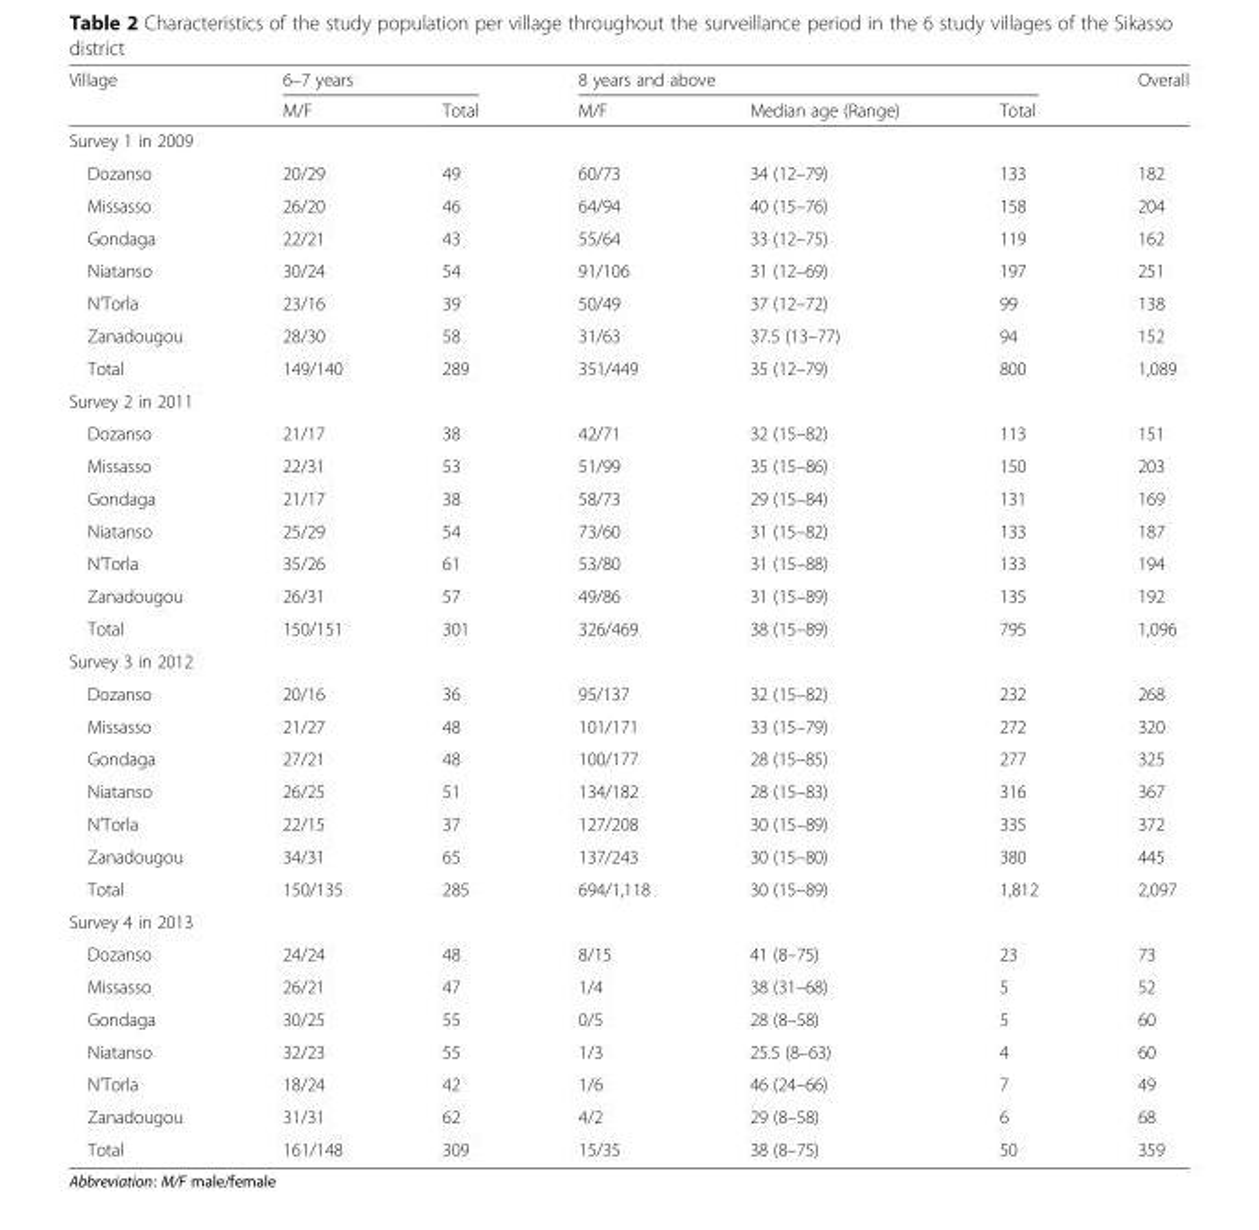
<table><thead><tr><td rowspan="2">Village</td><td colspan="2">6–7 years</td><td colspan="3">8 years and above</td><td rowspan="2">Overall</td></tr><tr><td>M/F</td><td>Total</td><td>M/F</td><td>Median age (Range)</td><td>Total</td></tr></thead><tbody><tr><td colspan="7">Survey 1 in 2009</td></tr><tr><td>Dozanso</td><td>20/29</td><td>49</td><td>60/73</td><td>34 (12–79)</td><td>133</td><td>182</td></tr><tr><td>Missasso</td><td>26/20</td><td>46</td><td>64/94</td><td>40 (15–76)</td><td>158</td><td>204</td></tr><tr><td>Gondaga</td><td>22/21</td><td>43</td><td>55/64</td><td>33 (12–75)</td><td>119</td><td>162</td></tr><tr><td>Niatanso</td><td>30/24</td><td>54</td><td>91/106</td><td>31 (12–69)</td><td>197</td><td>251</td></tr><tr><td>N’Torla</td><td>23/16</td><td>39</td><td>50/49</td><td>37 (12–72)</td><td>99</td><td>138</td></tr><tr><td>Zanadougou</td><td>28/30</td><td>58</td><td>31/63</td><td>37.5 (13–77)</td><td>94</td><td>152</td></tr><tr><td>Total</td><td>149/140</td><td>289</td><td>351/449</td><td>35 (12–79)</td><td>800</td><td>1,089</td></tr><tr><td colspan="7">Survey 2 in 2011</td></tr><tr><td>Dozanso</td><td>21/17</td><td>38</td><td>42/71</td><td>32 (15–82)</td><td>113</td><td>151</td></tr><tr><td>Missasso</td><td>22/31</td><td>53</td><td>51/99</td><td>35 (15–86)</td><td>150</td><td>203</td></tr><tr><td>Gondaga</td><td>21/17</td><td>38</td><td>58/73</td><td>29 (15–84)</td><td>131</td><td>169</td></tr><tr><td>Niatanso</td><td>25/29</td><td>54</td><td>73/60</td><td>31 (15–82)</td><td>133</td><td>187</td></tr><tr><td>N’Torla</td><td>35/26</td><td>61</td><td>53/80</td><td>31 (15–88)</td><td>133</td><td>194</td></tr><tr><td>Zanadougou</td><td>26/31</td><td>57</td><td>49/86</td><td>31 (15–89)</td><td>135</td><td>192</td></tr><tr><td>Total</td><td>150/151</td><td>301</td><td>326/469</td><td>38 (15–89)</td><td>795</td><td>1,096</td></tr><tr><td colspan="7">Survey 3 in 2012</td></tr><tr><td>Dozanso</td><td>20/16</td><td>36</td><td>95/137</td><td>32 (15–82)</td><td>232</td><td>268</td></tr><tr><td>Missasso</td><td>21/27</td><td>48</td><td>101/171</td><td>33 (15–79)</td><td>272</td><td>320</td></tr><tr><td>Gondaga</td><td>27/21</td><td>48</td><td>100/177</td><td>28 (15–85)</td><td>277</td><td>325</td></tr><tr><td>Niatanso</td><td>26/25</td><td>51</td><td>134/182</td><td>28 (15–83)</td><td>316</td><td>367</td></tr><tr><td>N’Torla</td><td>22/15</td><td>37</td><td>127/208</td><td>30 (15–89)</td><td>335</td><td>372</td></tr><tr><td>Zanadougou</td><td>34/31</td><td>65</td><td>137/243</td><td>30 (15–80)</td><td>380</td><td>445</td></tr><tr><td>Total</td><td>150/135</td><td>285</td><td>694/1,118</td><td>30 (15–89)</td><td>1,812</td><td>2,097</td></tr><tr><td colspan="7">Survey 4 in 2013</td></tr><tr><td>Dozanso</td><td>24/24</td><td>48</td><td>8/15</td><td>41 (8–75)</td><td>23</td><td>73</td></tr><tr><td>Missasso</td><td>26/21</td><td>47</td><td>1/4</td><td>38 (31–68)</td><td>5</td><td>52</td></tr><tr><td>Gondaga</td><td>30/25</td><td>55</td><td>0/5</td><td>28 (8–58)</td><td>5</td><td>60</td></tr><tr><td>Niatanso</td><td>32/23</td><td>55</td><td>1/3</td><td>25.5 (8–63)</td><td>4</td><td>60</td></tr><tr><td>N’Torla</td><td>18/24</td><td>42</td><td>1/6</td><td>46 (24–66)</td><td>7</td><td>49</td></tr><tr><td>Zanadougou</td><td>31/31</td><td>62</td><td>4/2</td><td>29 (8–58)</td><td>6</td><td>68</td></tr><tr><td>Total</td><td>161/148</td><td>309</td><td>15/35</td><td>38 (8–75)</td><td>50</td><td>359</td></tr></tbody></table>